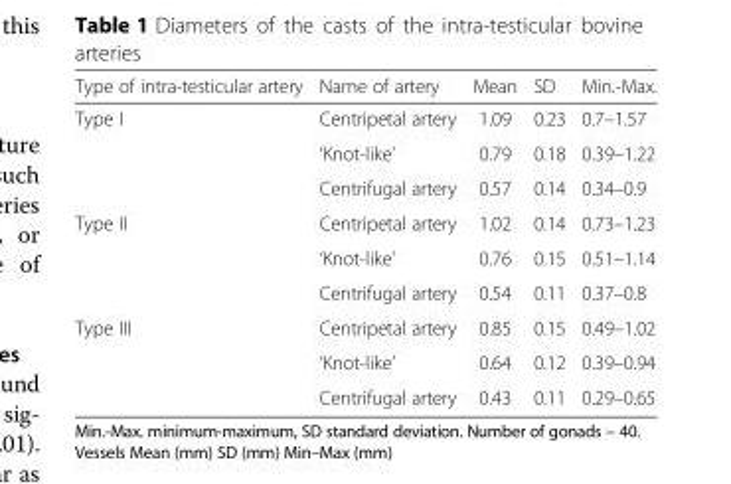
<table><thead><tr><td>Type of intra-testicular artery</td><td>Name of artery</td><td>Mean</td><td>SD</td><td>Min.-Max.</td></tr></thead><tbody><tr><td rowspan="3">Type I</td><td>Centripetal artery</td><td>1.09</td><td>0.23</td><td>0.7–1.57</td></tr><tr><td>‘Knot-like’</td><td>0.79</td><td>0.18</td><td>0.39–1.22</td></tr><tr><td>Centrifugal artery</td><td>0.57</td><td>0.14</td><td>0.34–0.9</td></tr><tr><td rowspan="3">Type II</td><td>Centripetal artery</td><td>1.02</td><td>0.14</td><td>0.73–1.23</td></tr><tr><td>‘Knot-like’</td><td>0.76</td><td>0.15</td><td>0.51–1.14</td></tr><tr><td>Centrifugal artery</td><td>0.54</td><td>0.11</td><td>0.37–0.8</td></tr><tr><td rowspan="3">Type III</td><td>Centripetal artery</td><td>0.85</td><td>0.15</td><td>0.49–1.02</td></tr><tr><td>‘Knot-like’</td><td>0.64</td><td>0.12</td><td>0.39–0.94</td></tr><tr><td>Centrifugal artery</td><td>0.43</td><td>0.11</td><td>0.29–0.65</td></tr></tbody></table>